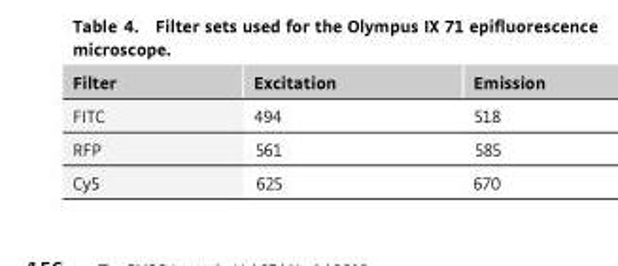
<table><thead><tr><td>Filter</td><td>Excitation</td><td>Emission</td></tr></thead><tbody><tr><td>FITC</td><td>494</td><td>518</td></tr><tr><td>RFP</td><td>561</td><td>585</td></tr><tr><td>Cy5</td><td>625</td><td>670</td></tr></tbody></table>